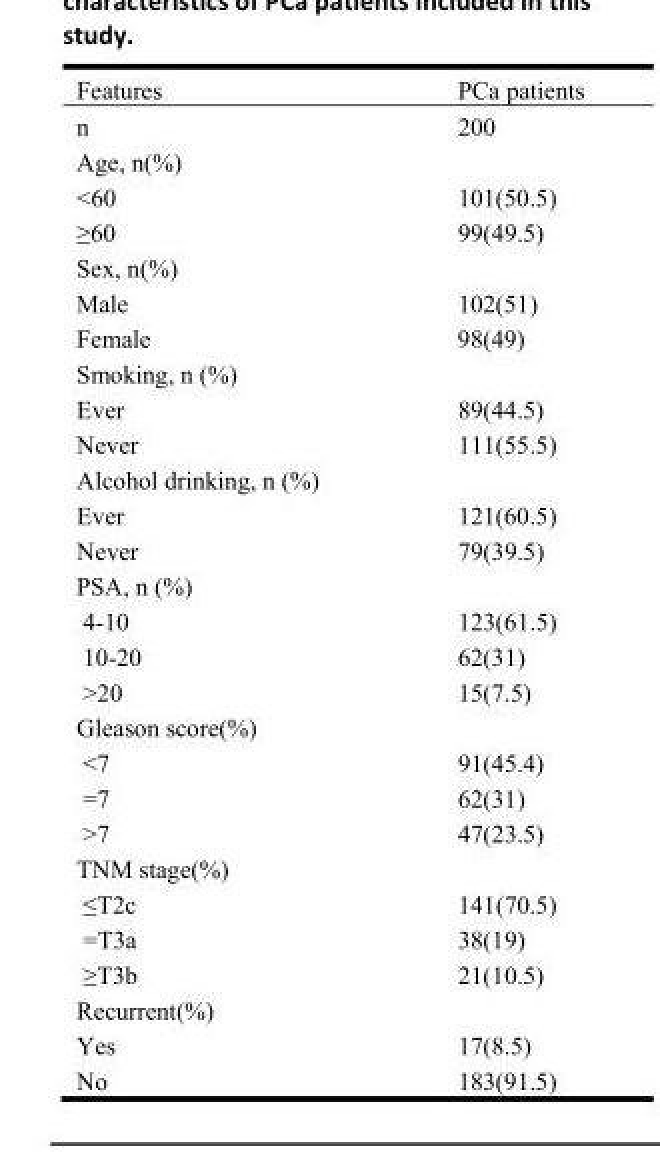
<table><tbody><tr><td>Features</td><td>PCa patients</td></tr><tr><td>n</td><td>200</td></tr><tr><td colspan="2">Age, n(%)</td></tr><tr><td>&lt;60</td><td>101(50.5)</td></tr><tr><td>≥60</td><td>99(49.5)</td></tr><tr><td colspan="2">Sex, n(%)</td></tr><tr><td>Male</td><td>102(51)</td></tr><tr><td>Female</td><td>98(49)</td></tr><tr><td colspan="2">Smoking, n (%)</td></tr><tr><td>Ever</td><td>89(44.5)</td></tr><tr><td>Never</td><td>111(55.5)</td></tr><tr><td colspan="2">Alcohol drinking, n (%)</td></tr><tr><td>Ever</td><td>121(60.5)</td></tr><tr><td>Never</td><td>79(39.5)</td></tr><tr><td colspan="2">PSA, n (%)</td></tr><tr><td>4-10</td><td>123(61.5)</td></tr><tr><td>10-20</td><td>62(31)</td></tr><tr><td>&gt;20</td><td>15(7.5)</td></tr><tr><td colspan="2">Gleason score(%)</td></tr><tr><td>&lt;7</td><td>91(45.4)</td></tr><tr><td>=7</td><td>62(31)</td></tr><tr><td>&gt;7</td><td>47(23.5)</td></tr><tr><td colspan="2">TNM stage(%)</td></tr><tr><td>≤T2c</td><td>141(70.5)</td></tr><tr><td>=T3a</td><td>38(19)</td></tr><tr><td>≥T3b</td><td>21(10.5)</td></tr><tr><td colspan="2">Recurrent(%)</td></tr><tr><td>Yes</td><td>17(8.5)</td></tr><tr><td>No</td><td>183(91.5)</td></tr></tbody></table>